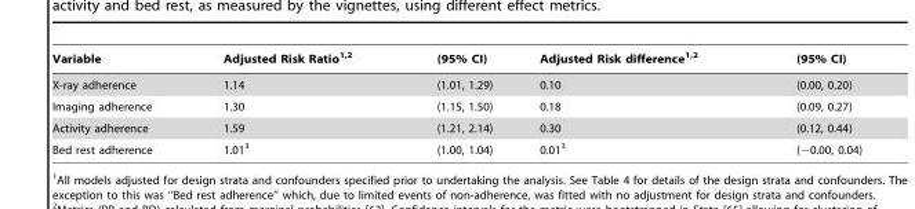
<table><thead><tr><td>Variable</td><td>Adjusted Risk Ratio<sup>1,2</sup></td><td>(95% CI)</td><td>Adjusted Risk difference<sup>1,2</sup></td><td>(95% CI)</td></tr></thead><tbody><tr><td>X-ray adherence</td><td>1.14</td><td>(1.01, 1.29)</td><td>0.10</td><td>(0.00, 0.20)</td></tr><tr><td>Imaging adherence</td><td>1.30</td><td>(1.15, 1.50)</td><td>0.18</td><td>(0.09, 0.27)</td></tr><tr><td>Activity adherence</td><td>1.59</td><td>(1.21, 2.14)</td><td>0.30</td><td>(0.12, 0.44)</td></tr><tr><td>Bed rest adherence</td><td>1.01<sup>3</sup></td><td>(1.00, 1.04)</td><td>0.01<sup>3</sup></td><td>(−0.00, 0.04)</td></tr></tbody></table>